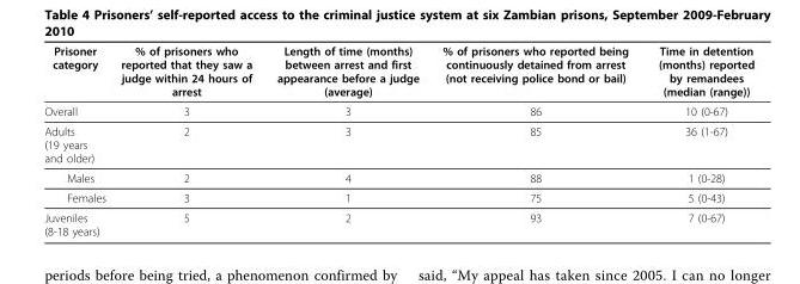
<table><thead><tr><td>Prisoner category</td><td>% of prisoners who reported that they saw a judge within 24 hours of arrest</td><td>Length of time (months) between arrest and first appearance before a judge (average)</td><td>% of prisoners who reported being continuously detained from arrest (not receiving police bond or bail)</td><td>Time in detention (months) reported by remandees (median (range))</td></tr></thead><tbody><tr><td>Overall</td><td>3</td><td>3</td><td>86</td><td>10 (0-67)</td></tr><tr><td>Adults (19 years and older)</td><td>2</td><td>3</td><td>85</td><td>36 (1-67)</td></tr><tr><td>Males</td><td>2</td><td>4</td><td>88</td><td>1 (0-28)</td></tr><tr><td>Females</td><td>3</td><td>1</td><td>75</td><td>5 (0-43)</td></tr><tr><td>Juveniles (8-18 years)</td><td>5</td><td>2</td><td>93</td><td>7 (0-67)</td></tr></tbody></table>